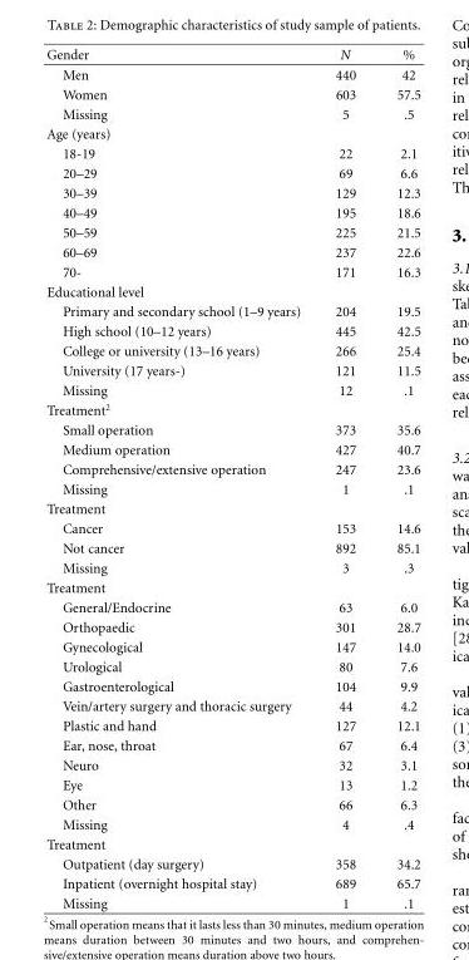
<table><thead><tr><td>Gender</td><td>N</td><td>%</td></tr></thead><tbody><tr><td>Men</td><td>440</td><td>42</td></tr><tr><td>Women</td><td>603</td><td>57.5</td></tr><tr><td>Missing</td><td>5</td><td>.5</td></tr><tr><td colspan="3">Age (years)</td></tr><tr><td>18-19</td><td>22</td><td>2.1</td></tr><tr><td>20–29</td><td>69</td><td>6.6</td></tr><tr><td>30–39</td><td>129</td><td>12.3</td></tr><tr><td>40–49</td><td>195</td><td>18.6</td></tr><tr><td>50–59</td><td>225</td><td>21.5</td></tr><tr><td>60–69</td><td>237</td><td>22.6</td></tr><tr><td>70-</td><td>171</td><td>16.3</td></tr><tr><td colspan="3">Educational level</td></tr><tr><td>Primary and secondary school (1–9 years)</td><td>204</td><td>19.5</td></tr><tr><td>High school (10–12 years)</td><td>445</td><td>42.5</td></tr><tr><td>College or university (13–16 years)</td><td>266</td><td>25.4</td></tr><tr><td>University (17 years-)</td><td>121</td><td>11.5</td></tr><tr><td>Missing</td><td>12</td><td>.1</td></tr><tr><td colspan="3">Treatment<sup>2</sup></td></tr><tr><td>Small operation</td><td>373</td><td>35.6</td></tr><tr><td>Medium operation</td><td>427</td><td>40.7</td></tr><tr><td>Comprehensive/extensive operation</td><td>247</td><td>23.6</td></tr><tr><td>Missing</td><td>1</td><td>.1</td></tr><tr><td colspan="3">Treatment</td></tr><tr><td>Cancer</td><td>153</td><td>14.6</td></tr><tr><td>Not cancer</td><td>892</td><td>85.1</td></tr><tr><td>Missing</td><td>3</td><td>.3</td></tr><tr><td colspan="3">Treatment</td></tr><tr><td>General/Endocrine</td><td>63</td><td>6.0</td></tr><tr><td>Orthopaedic</td><td>301</td><td>28.7</td></tr><tr><td>Gynecological</td><td>147</td><td>14.0</td></tr><tr><td>Urological</td><td>80</td><td>7.6</td></tr><tr><td>Gastroenterological</td><td>104</td><td>9.9</td></tr><tr><td>Vein/artery surgery and thoracic surgery</td><td>44</td><td>4.2</td></tr><tr><td>Plastic and hand</td><td>127</td><td>12.1</td></tr><tr><td>Ear, nose, throat</td><td>67</td><td>6.4</td></tr><tr><td>Neuro</td><td>32</td><td>3.1</td></tr><tr><td>Eye</td><td>13</td><td>1.2</td></tr><tr><td>Other</td><td>66</td><td>6.3</td></tr><tr><td>Missing</td><td>4</td><td>.4</td></tr><tr><td colspan="3">Treatment</td></tr><tr><td>Outpatient (day surgery)</td><td>358</td><td>34.2</td></tr><tr><td>Inpatient (overnight hospital stay)</td><td>689</td><td>65.7</td></tr><tr><td>Missing</td><td>1</td><td>.1</td></tr></tbody></table>